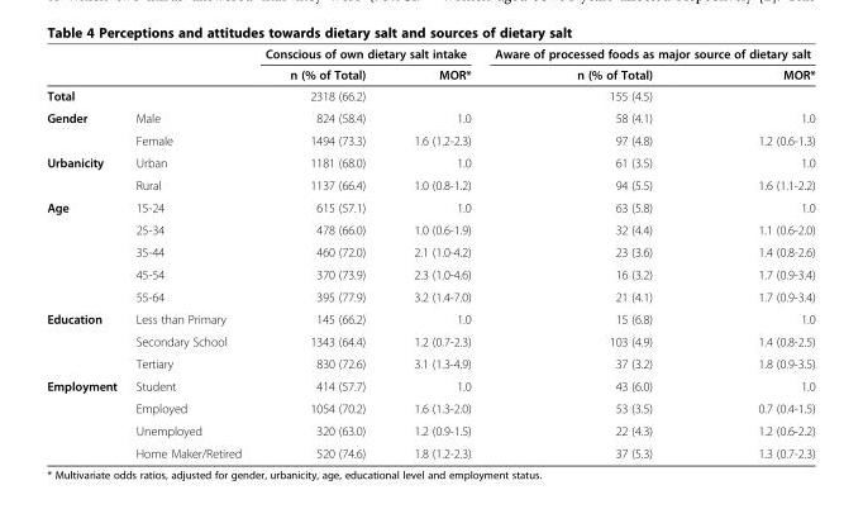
<table><thead><tr><td rowspan="2"></td><td rowspan="2"></td><td colspan="2">Conscious of own dietary salt intake</td><td colspan="2">Aware of processed foods as major source of dietary salt</td></tr><tr><td>n (% of Total)</td><td>MOR*</td><td>n (% of Total)</td><td>MOR*</td></tr></thead><tbody><tr><td colspan="2">Total</td><td>2318 (66.2)</td><td></td><td>155 (4.5)</td><td></td></tr><tr><td rowspan="2">Gender</td><td>Male</td><td>824 (58.4)</td><td>1.0</td><td>58 (4.1)</td><td>1.0</td></tr><tr><td>Female</td><td>1494 (73.3)</td><td>1.6 (1.2-2.3)</td><td>97 (4.8)</td><td>1.2 (0.6-1.3)</td></tr><tr><td rowspan="2">Urbanicity</td><td>Urban</td><td>1181 (68.0)</td><td>1.0</td><td>61 (3.5)</td><td>1.0</td></tr><tr><td>Rural</td><td>1137 (66.4)</td><td>1.0 (0.8-1.2)</td><td>94 (5.5)</td><td>1.6 (1.1-2.2)</td></tr><tr><td rowspan="5">Age</td><td>15-24</td><td>615 (57.1)</td><td>1.0</td><td>63 (5.8)</td><td>1.0</td></tr><tr><td>25-34</td><td>478 (66.0)</td><td>1.0 (0.6-1.9)</td><td>32 (4.4)</td><td>1.1 (0.6-2.0)</td></tr><tr><td>35-44</td><td>460 (72.0)</td><td>2.1 (1.0-4.2)</td><td>23 (3.6)</td><td>1.4 (0.8-2.6)</td></tr><tr><td>45-54</td><td>370 (73.9)</td><td>2.3 (1.0-4.6)</td><td>16 (3.2)</td><td>1.7 (0.9-3.4)</td></tr><tr><td>55-64</td><td>395 (77.9)</td><td>3.2 (1.4-7.0)</td><td>21 (4.1)</td><td>1.7 (0.9-3.4)</td></tr><tr><td rowspan="3">Education</td><td>Less than Primary</td><td>145 (66.2)</td><td>1.0</td><td>15 (6.8)</td><td>1.0</td></tr><tr><td>Secondary School</td><td>1343 (64.4)</td><td>1.2 (0.7-2.3)</td><td>103 (4.9)</td><td>1.4 (0.8-2.5)</td></tr><tr><td>Tertiary</td><td>830 (72.6)</td><td>3.1 (1.3-4.9)</td><td>37 (3.2)</td><td>1.8 (0.9-3.5)</td></tr><tr><td rowspan="4">Employment</td><td>Student</td><td>414 (57.7)</td><td>1.0</td><td>43 (6.0)</td><td>1.0</td></tr><tr><td>Employed</td><td>1054 (70.2)</td><td>1.6 (1.3-2.0)</td><td>53 (3.5)</td><td>0.7 (0.4-1.5)</td></tr><tr><td>Unemployed</td><td>320 (63.0)</td><td>1.2 (0.9-1.5)</td><td>22 (4.3)</td><td>1.2 (0.6-2.2)</td></tr><tr><td>Home Maker/Retired</td><td>520 (74.6)</td><td>1.8 (1.2-2.3)</td><td>37 (5.3)</td><td>1.3 (0.7-2.3)</td></tr></tbody></table>